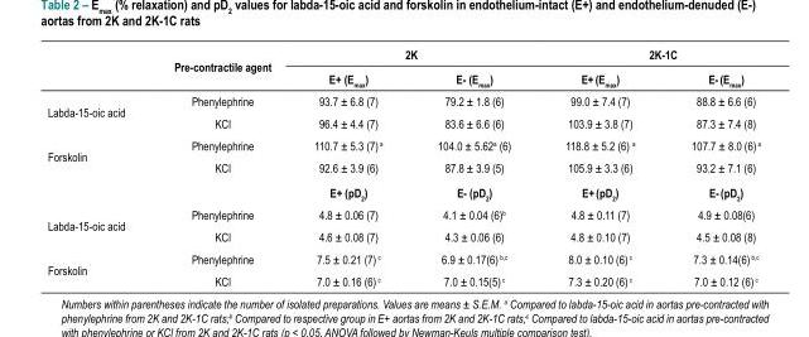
<table><thead><tr><td rowspan="2"></td><td rowspan="2">Pre-contractile agent</td><td colspan="2">2K</td><td colspan="2">2K-1C</td></tr><tr><td>E+ (E<sub>max</sub>)</td><td>E- (E<sub>max</sub>)</td><td>E+ (E<sub>max</sub>)</td><td>E- (E<sub>max</sub>)</td></tr></thead><tbody><tr><td rowspan="2">Labda-15-oic acid</td><td>Phenylephrine</td><td>93.7 ± 6.8 (7)</td><td>79.2 ± 1.8 (6)</td><td>99.0 ± 7.4 (7)</td><td>88.8 ± 6.6 (6)</td></tr><tr><td>KCl</td><td>96.4 ± 4.4 (7)</td><td>83.6 ± 6.6 (6)</td><td>103.9 ± 3.8 (7)</td><td>87.3 ± 7.4 (8)</td></tr><tr><td rowspan="3">Forskolin</td><td>Phenylephrine</td><td>110.7 ± 5.3 (7) <sup>a</sup></td><td>104.0 ± 5.62a (6)</td><td>118.8 ± 5.2 (6) <sup>a</sup></td><td>107.7 ± 8.0 (6) <sup>a</sup></td></tr><tr><td>KCl</td><td>92.6 ± 3.9 (6)</td><td>87.8 ± 3.9 (5)</td><td>105.9 ± 3.3 (6)</td><td>93.2 ± 7.1 (6)</td></tr><tr><td></td><td>E+ (pD<sub>2</sub>)</td><td>E- (pD<sub>2</sub>)</td><td>E+ (pD<sub>2</sub>)</td><td>E- (pD<sub>2</sub>)</td></tr><tr><td rowspan="2">Labda-15-oic acid</td><td>Phenylephrine</td><td>4.8 ± 0.06 (7)</td><td>4.1 ± 0.04 (6)<sup>b</sup></td><td>4.8 ± 0.11 (7)</td><td>4.9 ± 0.08(6)</td></tr><tr><td>KCl</td><td>4.6 ± 0.08 (7)</td><td>4.3 ± 0.06 (6)</td><td>4.8 ± 0.10 (7)</td><td>4.5 ± 0.08 (8)</td></tr><tr><td rowspan="2">Forskolin</td><td>Phenylephrine</td><td>7.5 ± 0.21 (7) <sup>c</sup></td><td>6.9 ± 0.17(6) <sup>b,c</sup></td><td>8.0 ± 0.10 (6) <sup>c</sup></td><td>7.3 ± 0.14(6) <sup>b,c</sup></td></tr><tr><td>KCl</td><td>7.0 ± 0.16 (6) <sup>c</sup></td><td>7.0 ± 0.15(5) <sup>c</sup></td><td>7.3 ± 0.20 (6) <sup>c</sup></td><td>7.0 ± 0.12 (6) <sup>c</sup></td></tr></tbody></table>